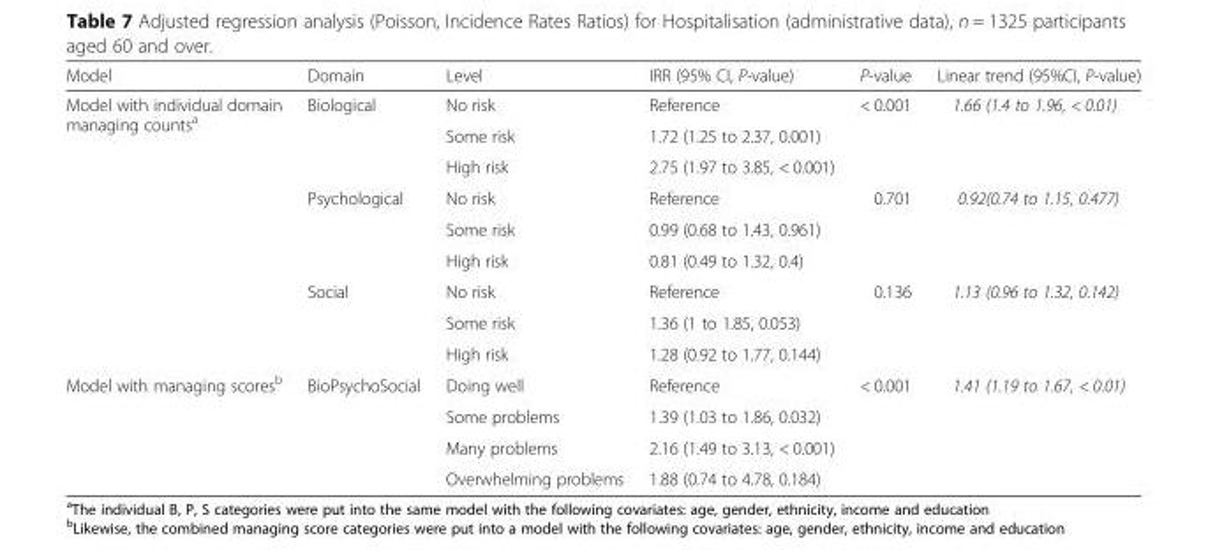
<table><thead><tr><td>Model</td><td>Domain</td><td>Level</td><td>IRR (95% CI, P-value)</td><td>P-value</td><td>Linear trend (95%CI, P-value)</td></tr></thead><tbody><tr><td rowspan="9">Model with individual domain managing counts<sup>a</sup></td><td rowspan="3">Biological</td><td>No risk</td><td>Reference</td><td rowspan="3">&lt; 0.001</td><td rowspan="3">1.66 (1.4 to 1.96, &lt; 0.01)</td></tr><tr><td>Some risk</td><td>1.72 (1.25 to 2.37, 0.001)</td></tr><tr><td>High risk</td><td>2.75 (1.97 to 3.85, &lt; 0.001)</td></tr><tr><td rowspan="3">Psychological</td><td>No risk</td><td>Reference</td><td rowspan="3">0.701</td><td rowspan="3">0.92(0.74 to 1.15, 0.477)</td></tr><tr><td>Some risk</td><td>0.99 (0.68 to 1.43, 0.961)</td></tr><tr><td>High risk</td><td>0.81 (0.49 to 1.32, 0.4)</td></tr><tr><td rowspan="3">Social</td><td>No risk</td><td>Reference</td><td rowspan="3">0.136</td><td rowspan="3">1.13 (0.96 to 1.32, 0.142)</td></tr><tr><td>Some risk</td><td>1.36 (1 to 1.85, 0.053)</td></tr><tr><td>High risk</td><td>1.28 (0.92 to 1.77, 0.144)</td></tr><tr><td rowspan="4">Model with managing scores<sup>b</sup></td><td rowspan="3">BioPsychoSocial</td><td>Doing well</td><td>Reference</td><td rowspan="3">&lt; 0.001</td><td rowspan="4">1.41 (1.19 to 1.67, &lt; 0.01)</td></tr><tr><td>Some problems</td><td>1.39 (1.03 to 1.86, 0.032)</td></tr><tr><td>Many problems</td><td>2.16 (1.49 to 3.13, &lt; 0.001)</td></tr><tr><td></td><td>Overwhelming problems</td><td>1.88 (0.74 to 4.78, 0.184)</td><td></td></tr></tbody></table>